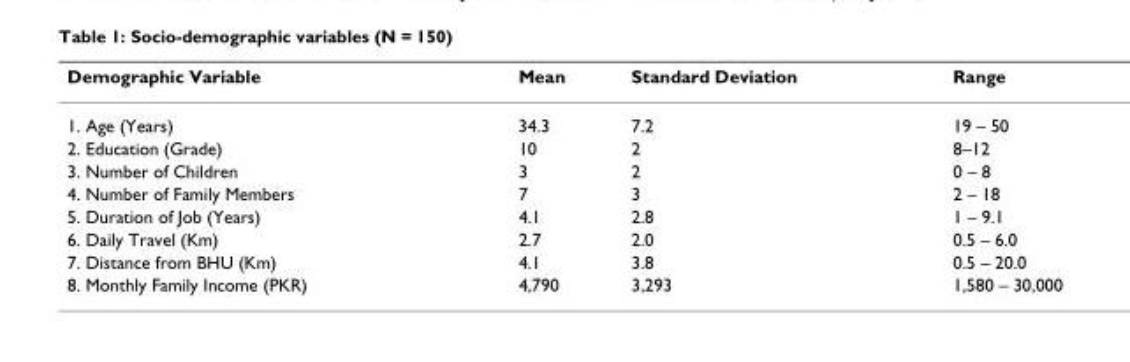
<table><thead><tr><td>Demographic Variable</td><td>Mean</td><td>Standard Deviation</td><td>Range</td></tr></thead><tbody><tr><td>1. Age (Years)</td><td>34.3</td><td>7.2</td><td>19 – 50</td></tr><tr><td>2. Education (Grade)</td><td>10</td><td>2</td><td>8–12</td></tr><tr><td>3. Number of Children</td><td>3</td><td>2</td><td>0 – 8</td></tr><tr><td>4. Number of Family Members</td><td>7</td><td>3</td><td>2 – 18</td></tr><tr><td>5. Duration of Job (Years)</td><td>4.1</td><td>2.8</td><td>1 – 9.1</td></tr><tr><td>6. Daily Travel (Km)</td><td>2.7</td><td>2.0</td><td>0.5 – 6.0</td></tr><tr><td>7. Distance from BHU (Km)</td><td>4.1</td><td>3.8</td><td>0.5 – 20.0</td></tr><tr><td>8. Monthly Family Income (PKR)</td><td>4,790</td><td>3,293</td><td>1,580 – 30,000</td></tr></tbody></table>